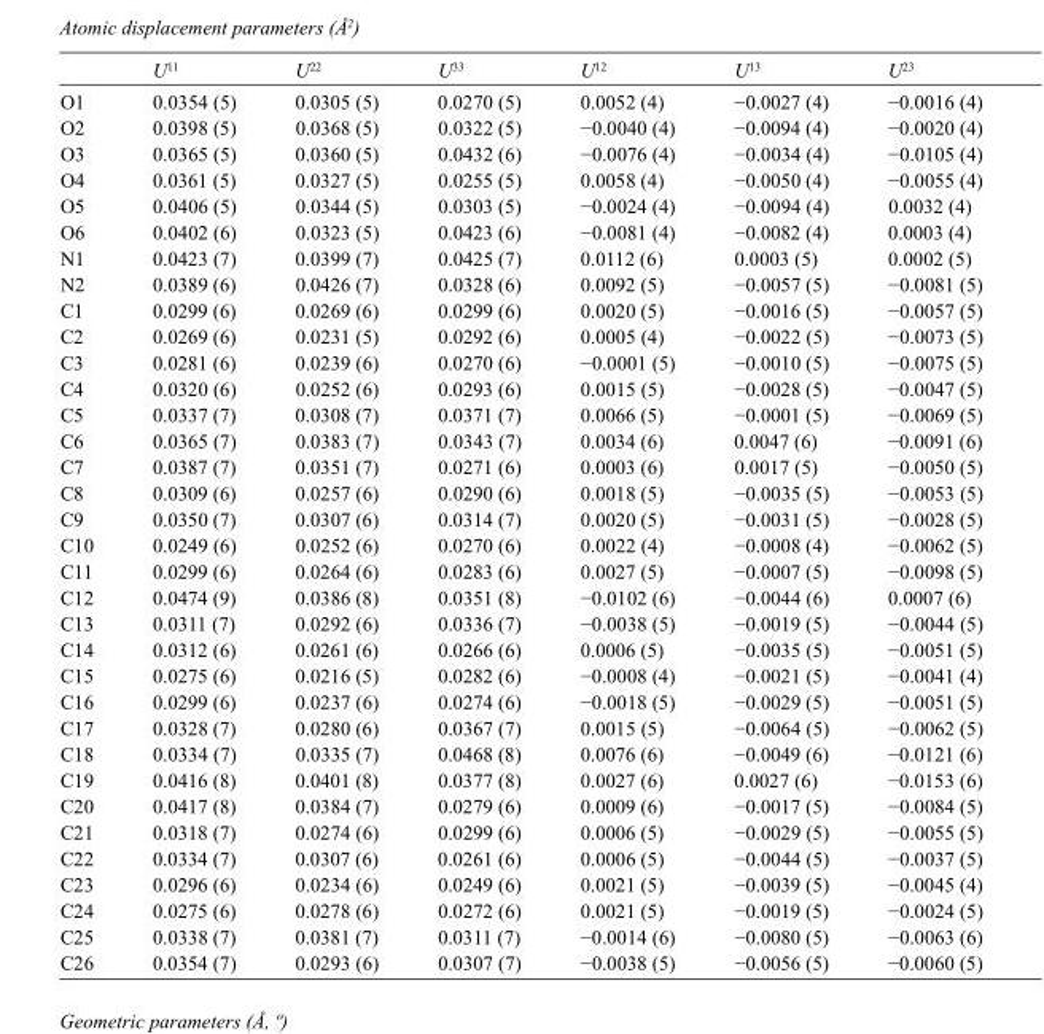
<table><thead><tr><td></td><td>U<sup>11</sup></td><td>U<sup>22</sup></td><td>U<sup>33</sup></td><td>U<sup>12</sup></td><td>U<sup>13</sup></td><td>U<sup>23</sup></td></tr></thead><tbody><tr><td>O1</td><td>0.0354 (5)</td><td>0.0305 (5)</td><td>0.0270 (5)</td><td>0.0052 (4)</td><td>−0.0027 (4)</td><td>−0.0016 (4)</td></tr><tr><td>O2</td><td>0.0398 (5)</td><td>0.0368 (5)</td><td>0.0322 (5)</td><td>−0.0040 (4)</td><td>−0.0094 (4)</td><td>−0.0020 (4)</td></tr><tr><td>O3</td><td>0.0365 (5)</td><td>0.0360 (5)</td><td>0.0432 (6)</td><td>−0.0076 (4)</td><td>−0.0034 (4)</td><td>−0.0105 (4)</td></tr><tr><td>O4</td><td>0.0361 (5)</td><td>0.0327 (5)</td><td>0.0255 (5)</td><td>0.0058 (4)</td><td>−0.0050 (4)</td><td>−0.0055 (4)</td></tr><tr><td>O5</td><td>0.0406 (5)</td><td>0.0344 (5)</td><td>0.0303 (5)</td><td>−0.0024 (4)</td><td>−0.0094 (4)</td><td>0.0032 (4)</td></tr><tr><td>O6</td><td>0.0402 (6)</td><td>0.0323 (5)</td><td>0.0423 (6)</td><td>−0.0081 (4)</td><td>−0.0082 (4)</td><td>0.0003 (4)</td></tr><tr><td>N1</td><td>0.0423 (7)</td><td>0.0399 (7)</td><td>0.0425 (7)</td><td>0.0112 (6)</td><td>0.0003 (5)</td><td>0.0002 (5)</td></tr><tr><td>N2</td><td>0.0389 (6)</td><td>0.0426 (7)</td><td>0.0328 (6)</td><td>0.0092 (5)</td><td>−0.0057 (5)</td><td>−0.0081 (5)</td></tr><tr><td>C1</td><td>0.0299 (6)</td><td>0.0269 (6)</td><td>0.0299 (6)</td><td>0.0020 (5)</td><td>−0.0016 (5)</td><td>−0.0057 (5)</td></tr><tr><td>C2</td><td>0.0269 (6)</td><td>0.0231 (5)</td><td>0.0292 (6)</td><td>0.0005 (4)</td><td>−0.0022 (5)</td><td>−0.0073 (5)</td></tr><tr><td>C3</td><td>0.0281 (6)</td><td>0.0239 (6)</td><td>0.0270 (6)</td><td>−0.0001 (5)</td><td>−0.0010 (5)</td><td>−0.0075 (5)</td></tr><tr><td>C4</td><td>0.0320 (6)</td><td>0.0252 (6)</td><td>0.0293 (6)</td><td>0.0015 (5)</td><td>−0.0028 (5)</td><td>−0.0047 (5)</td></tr><tr><td>C5</td><td>0.0337 (7)</td><td>0.0308 (7)</td><td>0.0371 (7)</td><td>0.0066 (5)</td><td>−0.0001 (5)</td><td>−0.0069 (5)</td></tr><tr><td>C6</td><td>0.0365 (7)</td><td>0.0383 (7)</td><td>0.0343 (7)</td><td>0.0034 (6)</td><td>0.0047 (6)</td><td>−0.0091 (6)</td></tr><tr><td>C7</td><td>0.0387 (7)</td><td>0.0351 (7)</td><td>0.0271 (6)</td><td>0.0003 (6)</td><td>0.0017 (5)</td><td>−0.0050 (5)</td></tr><tr><td>C8</td><td>0.0309 (6)</td><td>0.0257 (6)</td><td>0.0290 (6)</td><td>0.0018 (5)</td><td>−0.0035 (5)</td><td>−0.0053 (5)</td></tr><tr><td>C9</td><td>0.0350 (7)</td><td>0.0307 (6)</td><td>0.0314 (7)</td><td>0.0020 (5)</td><td>−0.0031 (5)</td><td>−0.0028 (5)</td></tr><tr><td>C10</td><td>0.0249 (6)</td><td>0.0252 (6)</td><td>0.0270 (6)</td><td>0.0022 (4)</td><td>−0.0008 (4)</td><td>−0.0062 (5)</td></tr><tr><td>C11</td><td>0.0299 (6)</td><td>0.0264 (6)</td><td>0.0283 (6)</td><td>0.0027 (5)</td><td>−0.0007 (5)</td><td>−0.0098 (5)</td></tr><tr><td>C12</td><td>0.0474 (9)</td><td>0.0386 (8)</td><td>0.0351 (8)</td><td>−0.0102 (6)</td><td>−0.0044 (6)</td><td>0.0007 (6)</td></tr><tr><td>C13</td><td>0.0311 (7)</td><td>0.0292 (6)</td><td>0.0336 (7)</td><td>−0.0038 (5)</td><td>−0.0019 (5)</td><td>−0.0044 (5)</td></tr><tr><td>C14</td><td>0.0312 (6)</td><td>0.0261 (6)</td><td>0.0266 (6)</td><td>0.0006 (5)</td><td>−0.0035 (5)</td><td>−0.0051 (5)</td></tr><tr><td>C15</td><td>0.0275 (6)</td><td>0.0216 (5)</td><td>0.0282 (6)</td><td>−0.0008 (4)</td><td>−0.0021 (5)</td><td>−0.0041 (4)</td></tr><tr><td>C16</td><td>0.0299 (6)</td><td>0.0237 (6)</td><td>0.0274 (6)</td><td>−0.0018 (5)</td><td>−0.0029 (5)</td><td>−0.0051 (5)</td></tr><tr><td>C17</td><td>0.0328 (7)</td><td>0.0280 (6)</td><td>0.0367 (7)</td><td>0.0015 (5)</td><td>−0.0064 (5)</td><td>−0.0062 (5)</td></tr><tr><td>C18</td><td>0.0334 (7)</td><td>0.0335 (7)</td><td>0.0468 (8)</td><td>0.0076 (6)</td><td>−0.0049 (6)</td><td>−0.0121 (6)</td></tr><tr><td>C19</td><td>0.0416 (8)</td><td>0.0401 (8)</td><td>0.0377 (8)</td><td>0.0027 (6)</td><td>0.0027 (6)</td><td>−0.0153 (6)</td></tr><tr><td>C20</td><td>0.0417 (8)</td><td>0.0384 (7)</td><td>0.0279 (6)</td><td>0.0009 (6)</td><td>−0.0017 (5)</td><td>−0.0084 (5)</td></tr><tr><td>C21</td><td>0.0318 (7)</td><td>0.0274 (6)</td><td>0.0299 (6)</td><td>0.0006 (5)</td><td>−0.0029 (5)</td><td>−0.0055 (5)</td></tr><tr><td>C22</td><td>0.0334 (7)</td><td>0.0307 (6)</td><td>0.0261 (6)</td><td>0.0006 (5)</td><td>−0.0044 (5)</td><td>−0.0037 (5)</td></tr><tr><td>C23</td><td>0.0296 (6)</td><td>0.0234 (6)</td><td>0.0249 (6)</td><td>0.0021 (5)</td><td>−0.0039 (5)</td><td>−0.0045 (4)</td></tr><tr><td>C24</td><td>0.0275 (6)</td><td>0.0278 (6)</td><td>0.0272 (6)</td><td>0.0021 (5)</td><td>−0.0019 (5)</td><td>−0.0024 (5)</td></tr><tr><td>C25</td><td>0.0338 (7)</td><td>0.0381 (7)</td><td>0.0311 (7)</td><td>−0.0014 (6)</td><td>−0.0080 (5)</td><td>−0.0063 (6)</td></tr><tr><td>C26</td><td>0.0354 (7)</td><td>0.0293 (6)</td><td>0.0307 (7)</td><td>−0.0038 (5)</td><td>−0.0056 (5)</td><td>−0.0060 (5)</td></tr></tbody></table>